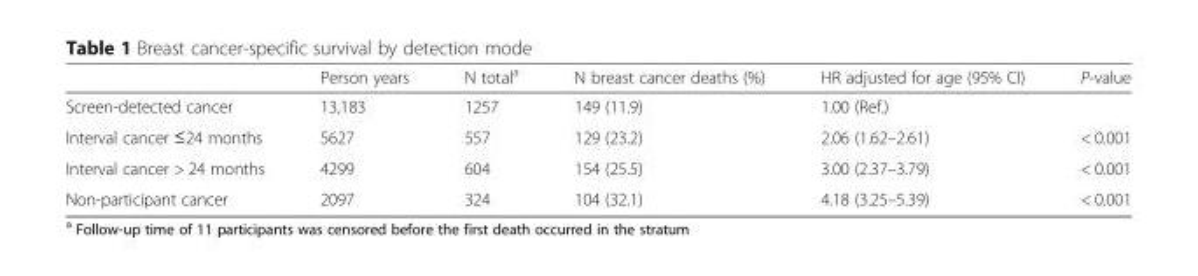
<table><thead><tr><td></td><td>Person years</td><td>N total<sup>a</sup></td><td>N breast cancer deaths (%)</td><td>HR adjusted for age (95% CI)</td><td>P-value</td></tr></thead><tbody><tr><td>Screen-detected cancer</td><td>13,183</td><td>1257</td><td>149 (11.9)</td><td>1.00 (Ref.)</td><td></td></tr><tr><td>Interval cancer ≤24 months</td><td>5627</td><td>557</td><td>129 (23.2)</td><td>2.06 (1.62–2.61)</td><td>&lt; 0.001</td></tr><tr><td>Interval cancer &gt; 24 months</td><td>4299</td><td>604</td><td>154 (25.5)</td><td>3.00 (2.37–3.79)</td><td>&lt; 0.001</td></tr><tr><td>Non-participant cancer</td><td>2097</td><td>324</td><td>104 (32.1)</td><td>4.18 (3.25–5.39)</td><td>&lt; 0.001</td></tr></tbody></table>